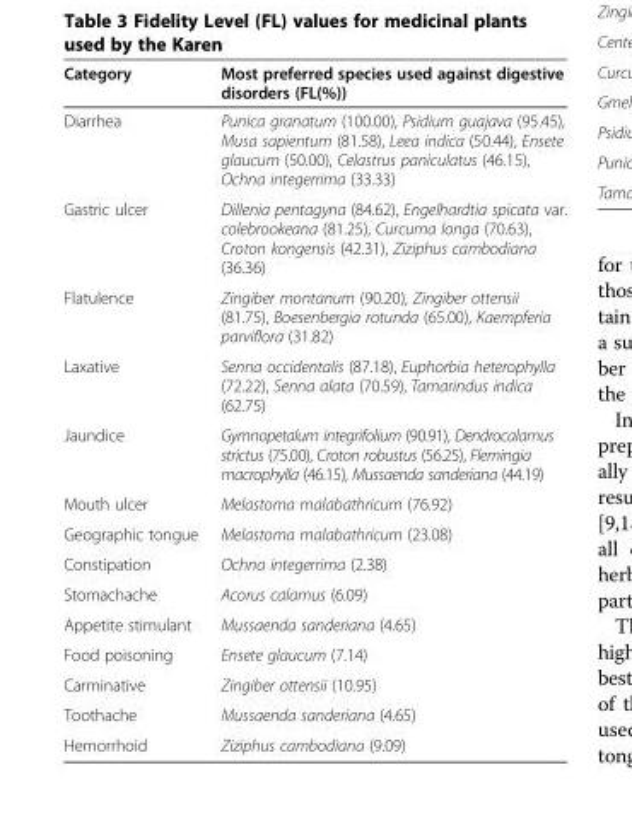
<table><thead><tr><td>Category</td><td>Most preferred species used against digestive disorders (FL(%))</td></tr></thead><tbody><tr><td>Diarrhea</td><td>Punica granatum (100.00), Psidium guajava (95.45), Musa sapientum (81.58), Leea indica (50.44), Ensete glaucum (50.00), Celastrus paniculatus (46.15), Ochna integerrima (33.33)</td></tr><tr><td>Gastric ulcer</td><td>Dillenia pentagyna (84.62), Engelhardtia spicata var. colebrookeana (81.25), Curcuma longa (70.63), Croton kongensis (42.31), Ziziphus cambodiana (36.36)</td></tr><tr><td>Flatulence</td><td>Zingiber montanum (90.20), Zingiber ottensii (81.75), Boesenbergia rotunda (65.00), Kaempferia parviflora (31.82)</td></tr><tr><td>Laxative</td><td>Senna occidentalis (87.18), Euphorbia heterophylla (72.22), Senna alata (70.59), Tamarindus indica (62.75)</td></tr><tr><td>Jaundice</td><td>Gymnopetalum integrifolium (90.91), Dendrocalamus strictus (75.00), Croton robustus (56.25), Flemingia macrophylla (46.15), Mussaenda sanderiana (44.19)</td></tr><tr><td>Mouth ulcer</td><td>Melastoma malabathricum (76.92)</td></tr><tr><td>Geographic tongue</td><td>Melastoma malabathricum (23.08)</td></tr><tr><td>Constipation</td><td>Ochna integerrima (2.38)</td></tr><tr><td>Stomachache</td><td>Acorus calamus (6.09)</td></tr><tr><td>Appetite stimulant</td><td>Mussaenda sanderiana (4.65)</td></tr><tr><td>Food poisoning</td><td>Ensete glaucum (7.14)</td></tr><tr><td>Carminative</td><td>Zingiber ottensii (10.95)</td></tr><tr><td>Toothache</td><td>Mussaenda sanderiana (4.65)</td></tr><tr><td>Hemorrhoid</td><td>Ziziphus cambodiana (9.09)</td></tr></tbody></table>